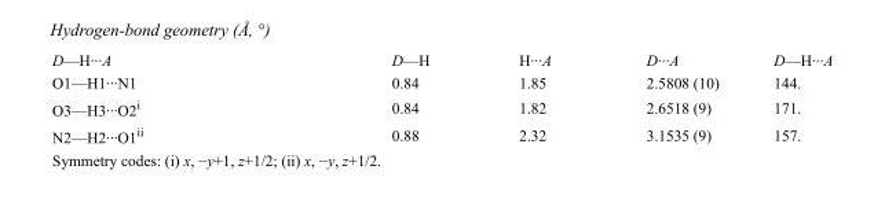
<table><tbody><tr><td>D—H···A</td><td>D—H</td><td>H···A</td><td>D···A</td><td>D—H···A</td></tr><tr><td>O1—H1···N1</td><td>0.84</td><td>1.85</td><td>2.5808 (10)</td><td>144.</td></tr><tr><td>O3—H3···O2<sup>i</sup></td><td>0.84</td><td>1.82</td><td>2.6518 (9)</td><td>171.</td></tr><tr><td>N2—H2···O1<sup>ii</sup></td><td>0.88</td><td>2.32</td><td>3.1535 (9)</td><td>157.</td></tr></tbody></table>